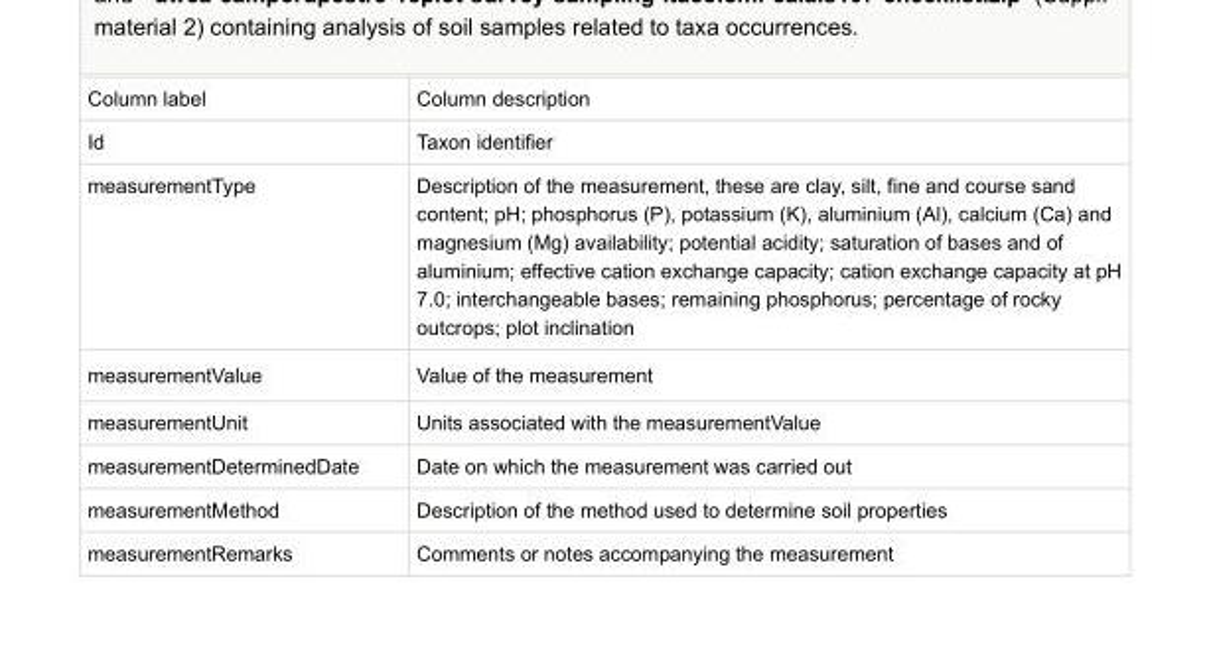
<table><tbody><tr><td>Column label</td><td>Column description</td></tr><tr><td>Id</td><td>Taxon identifier</td></tr><tr><td>measurementType</td><td>Description of the measurement, these are clay, silt, fine and course sand content; pH; phosphorus (P), potassium (K), aluminium (Al), calcium (Ca) and magnesium (Mg) availability; potential acidity; saturation of bases and of aluminium; effective cation exchange capacity; cation exchange capacity at pH 7.0; interchangeable bases; remaining phosphorus; percentage of rocky outcrops; plot inclination</td></tr><tr><td>measurementValue</td><td>Value of the measurement</td></tr><tr><td>measurementUnit</td><td>Units associated with the measurementValue</td></tr><tr><td>measurementDeterminedDate</td><td>Date on which the measurement was carried out</td></tr><tr><td>measurementMethod</td><td>Description of the method used to determine soil properties</td></tr><tr><td>measurementRemarks</td><td>Comments or notes accompanying the measurement</td></tr></tbody></table>